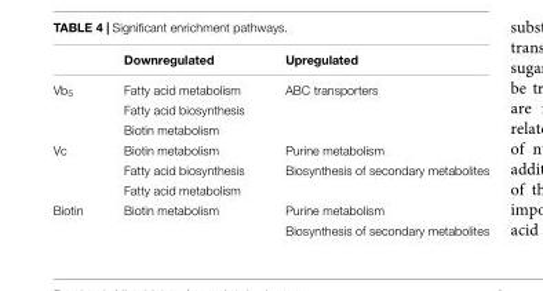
<table><thead><tr><td></td><td>Downregulated</td><td>Upregulated</td></tr></thead><tbody><tr><td rowspan="3">Vb<sub>5</sub></td><td>Fatty acid metabolism</td><td>ABC transporters</td></tr><tr><td>Fatty acid biosynthesis</td><td></td></tr><tr><td>Biotin metabolism</td><td></td></tr><tr><td rowspan="3">Vc</td><td>Biotin metabolism</td><td>Purine metabolism</td></tr><tr><td>Fatty acid biosynthesis</td><td>Biosynthesis of secondary metabolites</td></tr><tr><td>Fatty acid metabolism</td><td></td></tr><tr><td rowspan="2">Biotin</td><td>Biotin metabolism</td><td>Purine metabolism</td></tr><tr><td></td><td>Biosynthesis of secondary metabolites</td></tr></tbody></table>